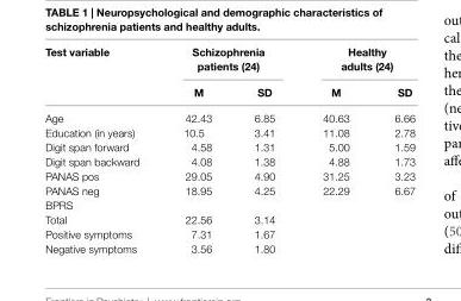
<table><thead><tr><td rowspan="2">Test variable</td><td colspan="2">schizophrenia patients (24)</td><td colspan="2">healthy adults (24)</td></tr><tr><td>M</td><td>sD</td><td>M</td><td>sD</td></tr></thead><tbody><tr><td>Age</td><td>42.43</td><td>6.85</td><td>40.63</td><td>6.66</td></tr><tr><td>Education (in years)</td><td>10.5</td><td>3.41</td><td>11.08</td><td>2.78</td></tr><tr><td>Digit span forward</td><td>4.58</td><td>1.31</td><td>5.00</td><td>1.59</td></tr><tr><td>Digit span backward</td><td>4.08</td><td>1.38</td><td>4.88</td><td>1.73</td></tr><tr><td>PANAS pos</td><td>29.05</td><td>4.90</td><td>31.25</td><td>3.23</td></tr><tr><td>PANAS neg</td><td>18.95</td><td>4.25</td><td>22.29</td><td>6.67</td></tr><tr><td colspan="5">BPRS</td></tr><tr><td>Total</td><td>22.56</td><td>3.14</td><td></td><td></td></tr><tr><td>Positive symptoms</td><td>7.31</td><td>1.67</td><td></td><td></td></tr><tr><td>Negative symptoms</td><td>3.56</td><td>1.80</td><td></td><td></td></tr></tbody></table>